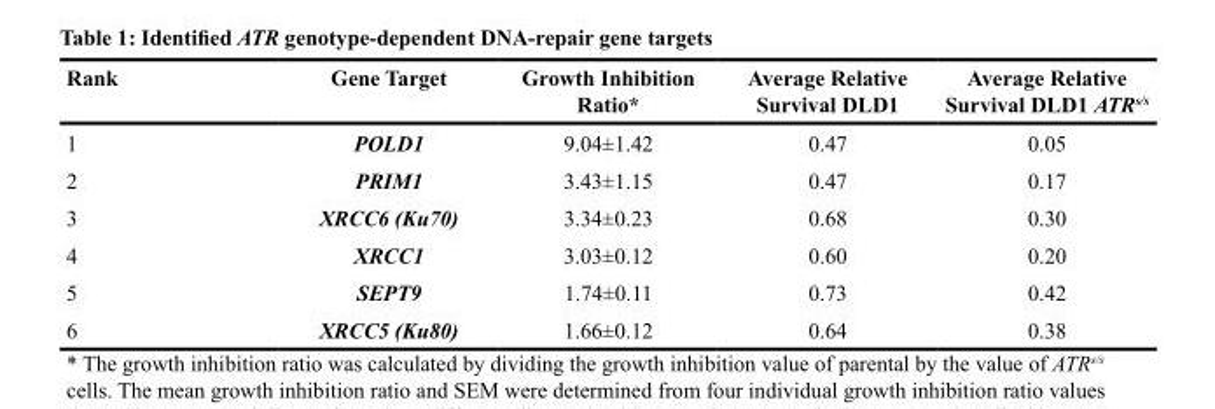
<table><thead><tr><td>Rank</td><td>Gene Target</td><td>Growth Inhibition Ratio*</td><td>Average Relative Survival DLD1</td><td>Average Relative Survival DLD1 ATR<sup>s/s</sup></td></tr></thead><tbody><tr><td>1</td><td>POLD1</td><td>9.04±1.42</td><td>0.47</td><td>0.05</td></tr><tr><td>2</td><td>PRIM1</td><td>3.43±1.15</td><td>0.47</td><td>0.17</td></tr><tr><td>3</td><td>XRCC6 (Ku70)</td><td>3.34±0.23</td><td>0.68</td><td>0.30</td></tr><tr><td>4</td><td>XRCC1</td><td>3.03±0.12</td><td>0.60</td><td>0.20</td></tr><tr><td>5</td><td>SEPT9</td><td>1.74±0.11</td><td>0.73</td><td>0.42</td></tr><tr><td>6</td><td>XRCC5 (Ku80)</td><td>1.66±0.12</td><td>0.64</td><td>0.38</td></tr></tbody></table>